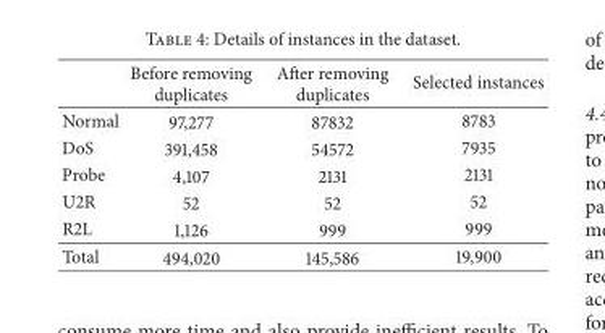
<table><thead><tr><td></td><td>Before removing duplicates</td><td>After removing duplicates</td><td>Selected instances</td></tr></thead><tbody><tr><td>Normal</td><td>97,277</td><td>87832</td><td>8783</td></tr><tr><td>DoS</td><td>391,458</td><td>54572</td><td>7935</td></tr><tr><td>Probe</td><td>4,107</td><td>2131</td><td>2131</td></tr><tr><td>U2R</td><td>52</td><td>52</td><td>52</td></tr><tr><td>R2L</td><td>1,126</td><td>999</td><td>999</td></tr><tr><td>Total</td><td>494,020</td><td>145,586</td><td>19,900</td></tr></tbody></table>